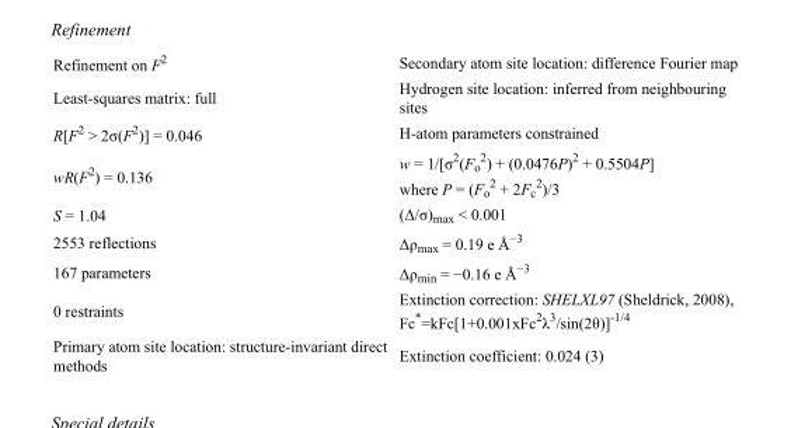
<table><tbody><tr><td>Refinement on F<sup>2</sup></td><td>Secondary atom site location: difference Fourier map</td></tr><tr><td>Least-squares matrix: full</td><td>Hydrogen site location: inferred from neighbouring sites</td></tr><tr><td>R[F<sup>2</sup> &gt; 2σ(F<sup>2</sup>)] = 0.046</td><td>H-atom parameters constrained</td></tr><tr><td>wR(F<sup>2</sup>) = 0.136</td><td>w = 1/[σ<sup>2</sup>(F<sub>o</sub> <sup>2</sup>) + (0.0476P)<sup>2</sup> + 0.5504P] where P = (F<sub>o</sub> <sup>2</sup> + 2F<sub>c</sub> <sup>2</sup>)/3</td></tr><tr><td>S = 1.04</td><td>(Δ/σ)<sub>max</sub> &lt; 0.001</td></tr><tr><td>2553 reflections</td><td>Δρ<sub>max</sub> = 0.19 e Å<sup>−3</sup></td></tr><tr><td>167 parameters</td><td>Δρ<sub>min</sub> = −0.16 e Å<sup>−3</sup></td></tr><tr><td>0 restraints</td><td>Extinction correction: SHELXL97 (Sheldrick, 2008), Fc*=kFc[1+0.001xFc<sup>2</sup>λ<sup>3</sup>/sin(2θ)]<sup>-1/4</sup></td></tr><tr><td>Primary atom site location: structure-invariant direct methods</td><td>Extinction coefficient: 0.024 (3)</td></tr></tbody></table>